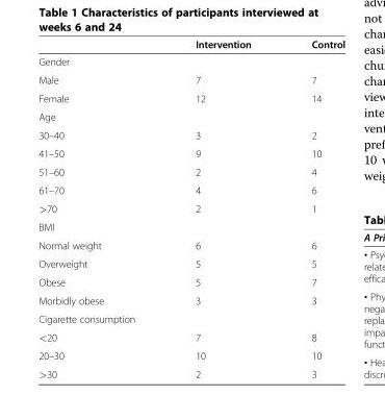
<table><thead><tr><td></td><td>Intervention</td><td>Control</td></tr></thead><tbody><tr><td colspan="3">Gender</td></tr><tr><td>Male</td><td>7</td><td>7</td></tr><tr><td>Female</td><td>12</td><td>14</td></tr><tr><td colspan="3">Age</td></tr><tr><td>30–40</td><td>3</td><td>2</td></tr><tr><td>41–50</td><td>9</td><td>10</td></tr><tr><td>51–60</td><td>2</td><td>4</td></tr><tr><td>61–70</td><td>4</td><td>6</td></tr><tr><td>&gt;70</td><td>2</td><td>1</td></tr><tr><td colspan="3">BMI</td></tr><tr><td>Normal weight</td><td>6</td><td>6</td></tr><tr><td>Overweight</td><td>5</td><td>5</td></tr><tr><td>Obese</td><td>5</td><td>7</td></tr><tr><td>Morbidly obese</td><td>3</td><td>3</td></tr><tr><td colspan="3">Cigarette consumption</td></tr><tr><td>&lt;20</td><td>7</td><td>8</td></tr><tr><td>20–30</td><td>10</td><td>10</td></tr><tr><td>&gt;30</td><td>2</td><td>3</td></tr></tbody></table>